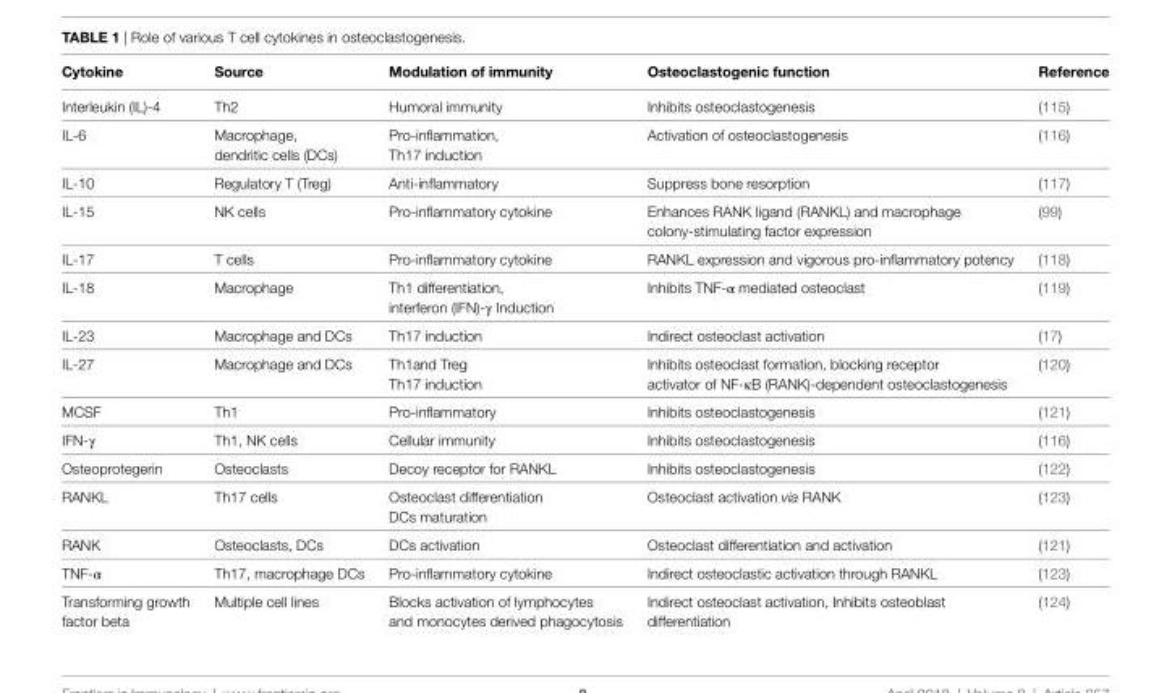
<table><thead><tr><td>Cytokine</td><td>Source</td><td>Modulation of immunity</td><td>Osteoclastogenic function</td><td>Reference</td></tr></thead><tbody><tr><td>Interleukin (IL)-4</td><td>Th2</td><td>Humoral immunity</td><td>Inhibits osteoclastogenesis</td><td>(115)</td></tr><tr><td>IL-6</td><td>Macrophage, dendritic cells (DCs)</td><td>Pro-inflammation, Th17 induction</td><td>Activation of osteoclastogenesis</td><td>(116)</td></tr><tr><td>IL-10</td><td>Regulatory T (Treg)</td><td>Anti-inflammatory</td><td>Suppress bone resorption</td><td>(117)</td></tr><tr><td>IL-15</td><td>NK cells</td><td>Pro-inflammatory cytokine</td><td>Enhances RANK ligand (RANKL) and macrophage colony-stimulating factor expression</td><td>(99)</td></tr><tr><td>IL-17</td><td>T cells</td><td>Pro-inflammatory cytokine</td><td>RANKL expression and vigorous pro-inflammatory potency</td><td>(118)</td></tr><tr><td>IL-18</td><td>Macrophage</td><td>Th1 differentiation, interferon (IFN)-γ Induction</td><td>Inhibits TNF-α mediated osteoclast</td><td>(119)</td></tr><tr><td>IL-23</td><td>Macrophage and DCs</td><td>Th17 induction</td><td>Indirect osteoclast activation</td><td>(17)</td></tr><tr><td>IL-27</td><td>Macrophage and DCs</td><td>Th1and Treg Th17 induction</td><td>Inhibits osteoclast formation, blocking receptor activator of NF-κB (RANK)-dependent osteoclastogenesis</td><td>(120)</td></tr><tr><td>MCSF</td><td>Th1</td><td>Pro-inflammatory</td><td>Inhibits osteoclastogenesis</td><td>(121)</td></tr><tr><td>IFN-γ</td><td>Th1, NK cells</td><td>Cellular immunity</td><td>Inhibits osteoclastogenesis</td><td>(116)</td></tr><tr><td>Osteoprotegerin</td><td>Osteoclasts</td><td>Decoy receptor for RANKL</td><td>Inhibits osteoclastogenesis</td><td>(122)</td></tr><tr><td>RANKL</td><td>Th17 cells</td><td>Osteoclast differentiation DCs maturation</td><td>Osteoclast activation via RANK</td><td>(123)</td></tr><tr><td>RANK</td><td>Osteoclasts, DCs</td><td>DCs activation</td><td>Osteoclast differentiation and activation</td><td>(121)</td></tr><tr><td>TNF-α</td><td>Th17, macrophage DCs</td><td>Pro-inflammatory cytokine</td><td>Indirect osteoclastic activation through RANKL</td><td>(123)</td></tr><tr><td>Transforming growth factor beta</td><td>Multiple cell lines</td><td>Blocks activation of lymphocytes and monocytes derived phagocytosis</td><td>Indirect osteoclast activation, Inhibits osteoblast differentiation</td><td>(124)</td></tr></tbody></table>